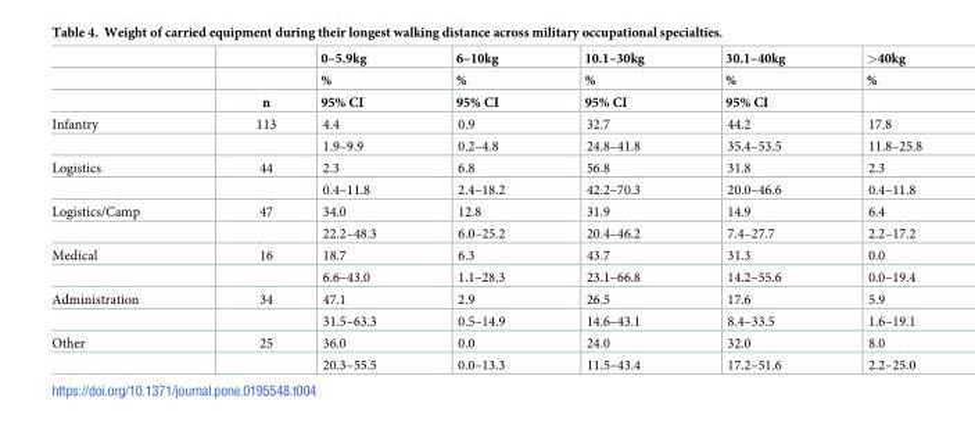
<table><thead><tr><td rowspan="3"></td><td rowspan="3">n</td><td rowspan="3">0–5.9kg % 95% CI</td><td rowspan="3">6–10kg % 95% CI</td><td rowspan="3">10.1–30kg % 95% CI</td><td rowspan="3">30.1–40kg % 95% CI</td><td rowspan="3">&gt;40kg %</td></tr><tr></tr><tr></tr></thead><tbody><tr><td rowspan="2">Infantry</td><td>113</td><td>4.4</td><td>0.9</td><td>32.7</td><td>44.2</td><td>17.8</td></tr><tr><td></td><td>1.9–9.9</td><td>0.2–4.8</td><td>24.8–41.8</td><td>35.4–53.5</td><td>11.8–25.8</td></tr><tr><td rowspan="2">Logistics</td><td>44</td><td>2.3</td><td>6.8</td><td>56.8</td><td>31.8</td><td>2.3</td></tr><tr><td></td><td>0.4–11.8</td><td>2.4–18.2</td><td>42.2–70.3</td><td>20.0–46.6</td><td>0.4–11.8</td></tr><tr><td rowspan="2">Logistics/Camp</td><td>47</td><td>34.0</td><td>12.8</td><td>31.9</td><td>14.9</td><td>6.4</td></tr><tr><td></td><td>22.2–48.3</td><td>6.0–25.2</td><td>20.4–46.2</td><td>7.4–27.7</td><td>2.2–17.2</td></tr><tr><td rowspan="2">Medical</td><td>16</td><td>18.7</td><td>6.3</td><td>43.7</td><td>31.3</td><td>0.0</td></tr><tr><td></td><td>6.6–43.0</td><td>1.1–28.3</td><td>23.1–66.8</td><td>14.2–55.6</td><td>0.0–19.4</td></tr><tr><td rowspan="2">Administration</td><td>34</td><td>47.1</td><td>2.9</td><td>26.5</td><td>17.6</td><td>5.9</td></tr><tr><td></td><td>31.5–63.3</td><td>0.5–14.9</td><td>14.6–43.1</td><td>8.4–33.5</td><td>1.6–19.1</td></tr><tr><td rowspan="2">Other</td><td>25</td><td>36.0</td><td>0.0</td><td>24.0</td><td>32.0</td><td>8.0</td></tr><tr><td></td><td>20.3–55.5</td><td>0.0–13.3</td><td>11.5–43.4</td><td>17.2–51.6</td><td>2.2–25.0</td></tr></tbody></table>